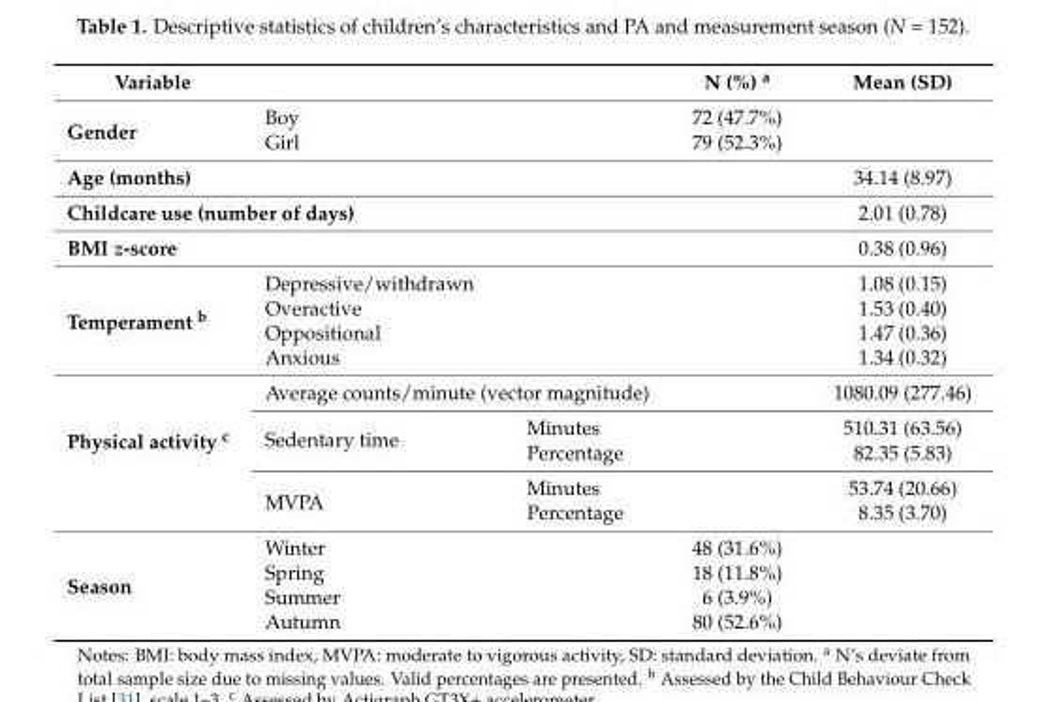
<table><thead><tr><td>Variable</td><td></td><td></td><td>N (%) <sup>a</sup></td><td>Mean (SD)</td></tr></thead><tbody><tr><td rowspan="2">Gender</td><td>Boy</td><td></td><td>72 (47.7%)</td><td></td></tr><tr><td>Girl</td><td></td><td>79 (52.3%)</td><td></td></tr><tr><td>Age (months)</td><td></td><td></td><td></td><td>34.14 (8.97)</td></tr><tr><td colspan="2">Childcare use (number of days)</td><td></td><td></td><td>2.01 (0.78)</td></tr><tr><td>BMI z-score</td><td></td><td></td><td></td><td>0.38 (0.96)</td></tr><tr><td rowspan="4">Temperament <sup>b</sup></td><td>Depressive/withdrawn</td><td rowspan="4"></td><td rowspan="4"></td><td>1.08 (0.15)</td></tr><tr><td>Overactive</td><td>1.53 (0.40)</td></tr><tr><td>Oppositional</td><td>1.47 (0.36)</td></tr><tr><td>Anxious</td><td>1.34 (0.32)</td></tr><tr><td rowspan="5">Physical activity <sup>c</sup></td><td colspan="2">Average counts/minute (vector magnitude)</td><td></td><td>1080.09 (277.46)</td></tr><tr><td rowspan="2">Sedentary time</td><td>Minutes</td><td></td><td>510.31 (63.56)</td></tr><tr><td>Percentage</td><td></td><td>82.35 (5.83)</td></tr><tr><td rowspan="2">MVPA</td><td>Minutes</td><td></td><td>53.74 (20.66)</td></tr><tr><td>Percentage</td><td></td><td>8.35 (3.70)</td></tr><tr><td rowspan="4">Season</td><td>Winter</td><td rowspan="4"></td><td>48 (31.6%)</td><td rowspan="4"></td></tr><tr><td>Spring</td><td>18 (11.8%)</td></tr><tr><td>Summer</td><td>6 (3.9%)</td></tr><tr><td>Autumn</td><td>80 (52.6%)</td></tr></tbody></table>